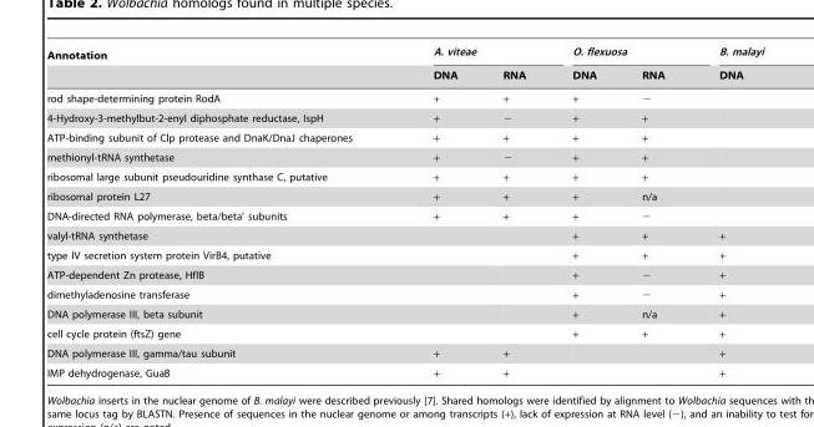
<table><thead><tr><td rowspan="2">Annotation</td><td colspan="2">A. viteae</td><td colspan="2">O. flexuosa</td><td rowspan="2">B. malayi DNA</td></tr><tr><td>DNA</td><td>RNA</td><td>DNA</td><td>RNA</td></tr></thead><tbody><tr><td>rod shape-determining protein RodA</td><td>+</td><td>+</td><td>+</td><td>−</td><td></td></tr><tr><td>4-Hydroxy-3-methylbut-2-enyl diphosphate reductase, IspH</td><td>+</td><td>−</td><td>+</td><td>+</td><td></td></tr><tr><td>ATP-binding subunit of Clp protease and DnaK/DnaJ chaperones</td><td>+</td><td>+</td><td>+</td><td>+</td><td></td></tr><tr><td>methionyl-tRNA synthetase</td><td>+</td><td>−</td><td>+</td><td>+</td><td></td></tr><tr><td>ribosomal large subunit pseudouridine synthase C, putative</td><td>+</td><td>+</td><td>+</td><td>+</td><td></td></tr><tr><td>ribosomal protein L27</td><td>+</td><td>+</td><td>+</td><td>n/a</td><td></td></tr><tr><td>DNA-directed RNA polymerase, beta/beta’ subunits</td><td>+</td><td>+</td><td>+</td><td>−</td><td></td></tr><tr><td>valyl-tRNA synthetase</td><td></td><td></td><td>+</td><td>+</td><td>+</td></tr><tr><td>type IV secretion system protein VirB4, putative</td><td></td><td></td><td>+</td><td>+</td><td>+</td></tr><tr><td>ATP-dependent Zn protease, HflB</td><td></td><td></td><td>+</td><td>−</td><td>+</td></tr><tr><td>dimethyladenosine transferase</td><td></td><td></td><td>+</td><td>−</td><td>+</td></tr><tr><td>DNA polymerase III, beta subunit</td><td></td><td></td><td>+</td><td>n/a</td><td>+</td></tr><tr><td>cell cycle protein (ftsZ) gene</td><td></td><td></td><td>+</td><td>+</td><td>+</td></tr><tr><td>DNA polymerase III, gamma/tau subunit</td><td>+</td><td>+</td><td></td><td></td><td>+</td></tr><tr><td>IMP dehydrogenase, GuaB</td><td>+</td><td>+</td><td></td><td></td><td>+</td></tr></tbody></table>